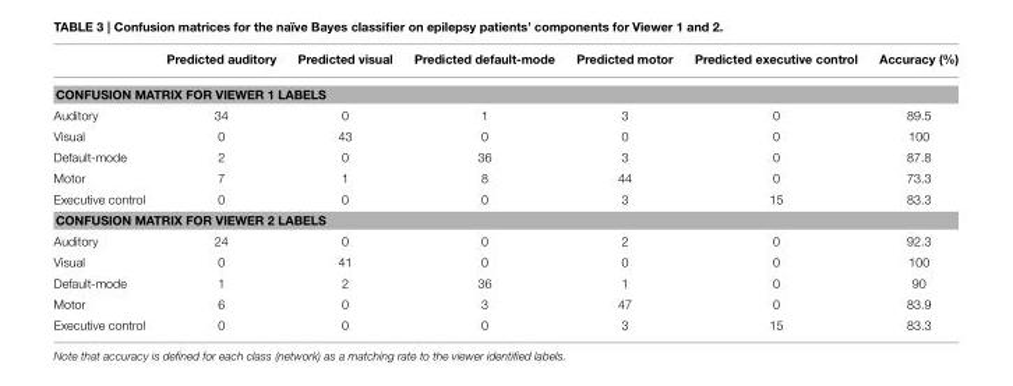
<table><thead><tr><td></td><td>Predicted auditory</td><td>Predicted visual</td><td>Predicted default-mode</td><td>Predicted motor</td><td>Predicted executive control</td><td>Accuracy (%)</td></tr></thead><tbody><tr><td colspan="7">CONFUSION MATRIX FOR VIEWER 1 LABELS</td></tr><tr><td>Auditory</td><td>34</td><td>0</td><td>1</td><td>3</td><td>0</td><td>89.5</td></tr><tr><td>Visual</td><td>0</td><td>43</td><td>0</td><td>0</td><td>0</td><td>100</td></tr><tr><td>Default-mode</td><td>2</td><td>0</td><td>36</td><td>3</td><td>0</td><td>87.8</td></tr><tr><td>Motor</td><td>7</td><td>1</td><td>8</td><td>44</td><td>0</td><td>73.3</td></tr><tr><td>Executive control</td><td>0</td><td>0</td><td>0</td><td>3</td><td>15</td><td>83.3</td></tr><tr><td colspan="7">CONFUSION MATRIX FOR VIEWER 2 LABELS</td></tr><tr><td>Auditory</td><td>24</td><td>0</td><td>0</td><td>2</td><td>0</td><td>92.3</td></tr><tr><td>Visual</td><td>0</td><td>41</td><td>0</td><td>0</td><td>0</td><td>100</td></tr><tr><td>Default-mode</td><td>1</td><td>2</td><td>36</td><td>1</td><td>0</td><td>90</td></tr><tr><td>Motor</td><td>6</td><td>0</td><td>3</td><td>47</td><td>0</td><td>83.9</td></tr><tr><td>Executive control</td><td>0</td><td>0</td><td>0</td><td>3</td><td>15</td><td>83.3</td></tr></tbody></table>